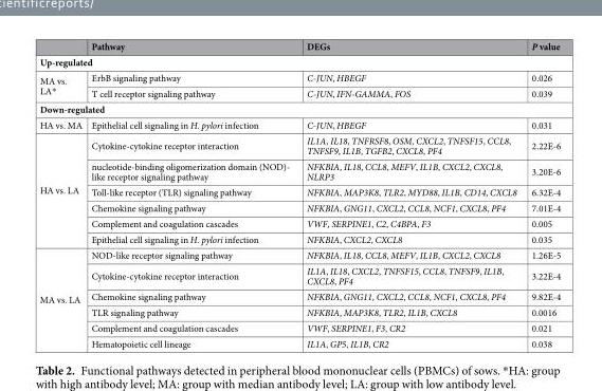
<table><thead><tr><td></td><td>Pathway</td><td>DEGs</td><td>P value</td></tr></thead><tbody><tr><td colspan="4">Up-regulated</td></tr><tr><td rowspan="2">MA vs. LA*</td><td>ErbB signaling pathway</td><td>C-JUN, HBEGF</td><td>0.026</td></tr><tr><td>T cell receptor signaling pathway</td><td>C-JUN, IFN-GAMMA, FOS</td><td>0.039</td></tr><tr><td colspan="4">Down-regulated</td></tr><tr><td>HA vs. MA</td><td>Epithelial cell signaling in H. pylori infection</td><td>C-JUN, HBEGF</td><td>0.031</td></tr><tr><td rowspan="6">HA vs. LA</td><td>Cytokine-cytokine receptor interaction</td><td>IL1A, IL18, TNFRSF8, OSM, CXCL2, TNFSF15, CCL8, TNFSF9, IL1B, TGFB2, CXCL8, PF4</td><td>2.22E-6</td></tr><tr><td>nucleotide-binding oligomerization domain (NOD)- like receptor signaling pathway</td><td>NFKBIA, IL18, CCL8, MEFV, IL1B, CXCL2, CXCL8, NLRP3</td><td>3.20E-6</td></tr><tr><td>Toll-like receptor (TLR) signaling pathway</td><td>NFKBIA, MAP3K8, TLR2, MYD88, IL1B, CD14, CXCL8</td><td>6.32E-4</td></tr><tr><td>Chemokine signaling pathway</td><td>NFKBIA, GNG11, CXCL2, CCL8, NCF1, CXCL8, PF4</td><td>7.01E-4</td></tr><tr><td>Complement and coagulation cascades</td><td>VWF, SERPINE1, C2, C4BPA, F3</td><td>0.005</td></tr><tr><td>Epithelial cell signaling in H. pylori infection</td><td>NFKBIA, CXCL2, CXCL8</td><td>0.035</td></tr><tr><td rowspan="6">MA vs. LA</td><td>NOD-like receptor signaling pathway</td><td>NFKBIA, IL18, CCL8, MEFV, IL1B, CXCL2, CXCL8</td><td>1.26E-5</td></tr><tr><td>Cytokine-cytokine receptor interaction</td><td>IL1A, IL18, CXCL2, TNFSF15, CCL8, TNFSF9, IL1B, CXCL8, PF4</td><td>3.22E-4</td></tr><tr><td>Chemokine signaling pathway</td><td>NFKBIA, GNG11, CXCL2, CCL8, NCF1, CXCL8, PF4</td><td>9.82E-4</td></tr><tr><td>TLR signaling pathway</td><td>NFKBIA, MAP3K8, TLR2, IL1B, CXCL8</td><td>0.0016</td></tr><tr><td>Complement and coagulation cascades</td><td>VWF, SERPINE1, F3, CR2</td><td>0.021</td></tr><tr><td>Hematopoietic cell lineage</td><td>IL1A, GP5, IL1B, CR2</td><td>0.038</td></tr></tbody></table>